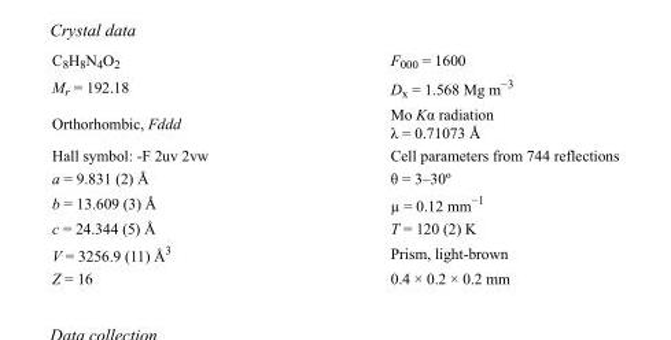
<table><tbody><tr><td>C<sub>8</sub>H<sub>8</sub>N<sub>4</sub>O<sub>2</sub></td><td>F<sub>000</sub> = 1600</td></tr><tr><td>M<sub>r</sub> = 192.18</td><td>D<sub>x</sub> = 1.568 Mg m<sup>−3</sup></td></tr><tr><td>Orthorhombic, Fddd</td><td>Mo Kα radiation λ = 0.71073 Å</td></tr><tr><td>Hall symbol: -F 2uv 2vw</td><td>Cell parameters from 744 reflections</td></tr><tr><td>a = 9.831 (2) Å</td><td>θ = 3–30º</td></tr><tr><td>b = 13.609 (3) Å</td><td>µ = 0.12 mm<sup>−1</sup></td></tr><tr><td>c = 24.344 (5) Å</td><td>T = 120 (2) K</td></tr><tr><td>V = 3256.9 (11) Å<sup>3</sup></td><td>Prism, light-brown</td></tr><tr><td>Z = 16</td><td>0.4 × 0.2 × 0.2 mm</td></tr></tbody></table>